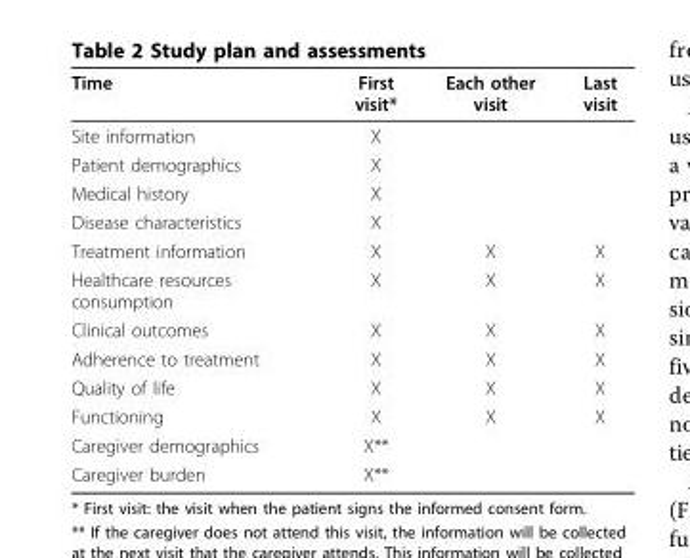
<table><thead><tr><td>Time</td><td>First visit*</td><td>Each other visit</td><td>Last visit</td></tr></thead><tbody><tr><td>Site information</td><td>X</td><td></td><td></td></tr><tr><td>Patient demographics</td><td>X</td><td></td><td></td></tr><tr><td>Medical history</td><td>X</td><td></td><td></td></tr><tr><td>Disease characteristics</td><td>X</td><td></td><td></td></tr><tr><td>Treatment information</td><td>X</td><td>X</td><td>X</td></tr><tr><td>Healthcare resources consumption</td><td>X</td><td>X</td><td>X</td></tr><tr><td>Clinical outcomes</td><td>X</td><td>X</td><td>X</td></tr><tr><td>Adherence to treatment</td><td>X</td><td>X</td><td>X</td></tr><tr><td>Quality of life</td><td>X</td><td>X</td><td>X</td></tr><tr><td>Functioning</td><td>X</td><td>X</td><td>X</td></tr><tr><td>Caregiver demographics</td><td>X**</td><td></td><td></td></tr><tr><td>Caregiver burden</td><td>X**</td><td></td><td></td></tr></tbody></table>